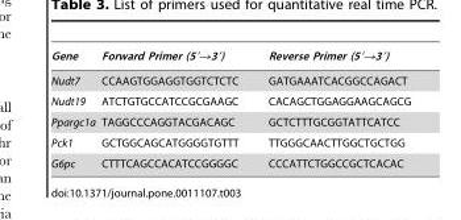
<table><thead><tr><td>Gene</td><td>Forward Primer (5′→3′)</td><td>Reverse Primer (5′→3′)</td></tr></thead><tbody><tr><td>Nudt7</td><td>CCAAGTGGAGGTGGTCTCTC</td><td>GATGAAATCACGGCCAGACT</td></tr><tr><td>Nudt19</td><td>ATCTGTGCCATCCGCGAAGC</td><td>CACAGCTGGAGGAAGCAGCG</td></tr><tr><td>Ppargc1a</td><td>TAGGCCCAGGTACGACAGC</td><td>GCTCTTTGCGGTATTCATCC</td></tr><tr><td>Pck1</td><td>GCTGGCAGCATGGGGTGTTT</td><td>TTGGGCAACTTGGCTGCTGG</td></tr><tr><td>G6pc</td><td>CTTTCAGCCACATCCGGGGC</td><td>CCCATTCTGGCCGCTCACAC</td></tr></tbody></table>